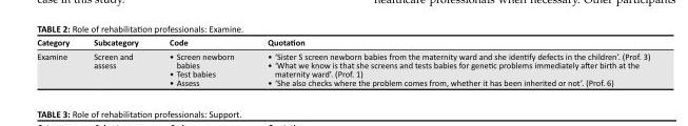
<table><thead><tr><td>Category</td><td>Subcategory</td><td>Code</td><td>Quotation</td></tr></thead><tbody><tr><td>Examine</td><td>Screen and assess</td><td>• Screen newborn babies • Test babies • Assess</td><td>• ‘Sister S screen newborn babies from the maternity ward and she identify defects in the children’. (Prof. 3) • ‘What we know is that she screens and tests babies for genetic problems immediately after birth at the maternity ward’. (Prof. 1) • ‘She also checks where the problem comes from, whether it has been inherited or not’. (Prof. 6)</td></tr></tbody></table>